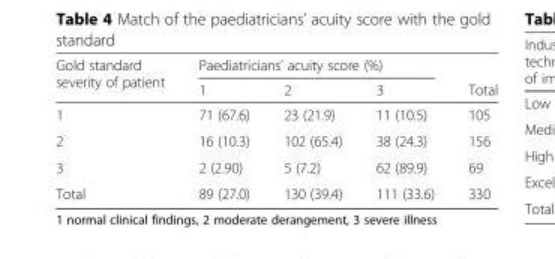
<table><thead><tr><td rowspan="2">Gold standard severity of patient</td><td colspan="3">Paediatricians’ acuity score (%)</td><td rowspan="2">Total</td></tr><tr><td>1</td><td>2</td><td>3</td></tr></thead><tbody><tr><td>1</td><td>71 (67.6)</td><td>23 (21.9)</td><td>11 (10.5)</td><td>105</td></tr><tr><td>2</td><td>16 (10.3)</td><td>102 (65.4)</td><td>38 (24.3)</td><td>156</td></tr><tr><td>3</td><td>2 (2.90)</td><td>5 (7.2)</td><td>62 (89.9)</td><td>69</td></tr><tr><td>Total</td><td>89 (27.0)</td><td>130 (39.4)</td><td>111 (33.6)</td><td>330</td></tr></tbody></table>